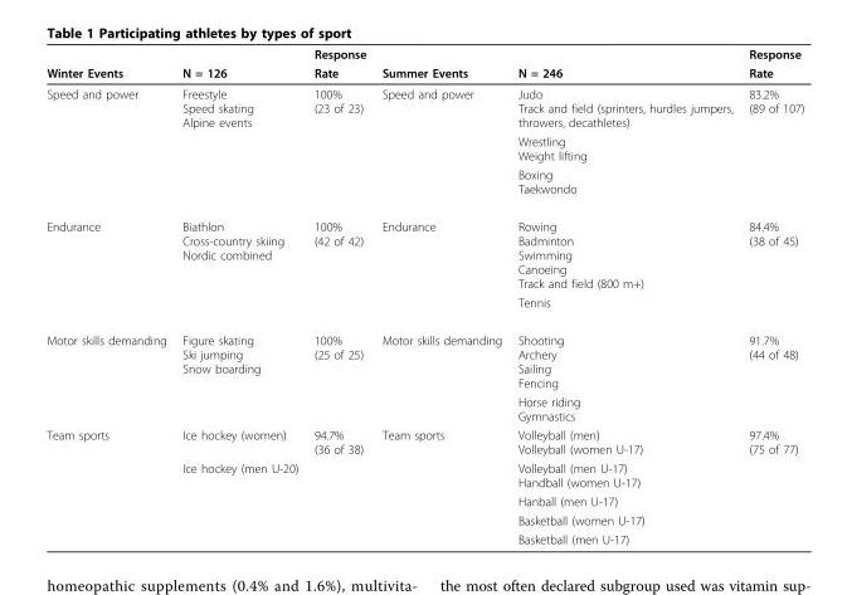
<table><thead><tr><td rowspan="2">Winter Events</td><td rowspan="2">N = 126</td><td rowspan="2">Response Rate</td><td rowspan="2">Summer Events</td><td rowspan="2">N = 246</td><td rowspan="2">Response Rate</td></tr><tr></tr></thead><tbody><tr><td rowspan="3">Speed and power</td><td>Freestyle Speed skating Alpine events</td><td>100% (23 of 23)</td><td>Speed and power</td><td>Judo Track and field (sprinters, hurdles jumpers, throwers, decathletes)</td><td>83.2% (89 of 107)</td></tr><tr><td></td><td></td><td></td><td>Wrestling Weight lifting</td><td></td></tr><tr><td></td><td></td><td></td><td>Boxing Taekwondo</td><td></td></tr><tr><td rowspan="2">Endurance</td><td>Biathlon Cross-country skiing Nordic combined</td><td>100% (42 of 42)</td><td>Endurance</td><td>Rowing Badminton Swimming Canoeing Track and field (800 m+)</td><td>84.4% (38 of 45)</td></tr><tr><td></td><td></td><td></td><td>Tennis</td><td></td></tr><tr><td rowspan="2">Motor skills demanding</td><td>Figure skating Ski jumping Snow boarding</td><td>100% (25 of 25)</td><td>Motor skills demanding</td><td>Shooting Archery Sailing Fencing</td><td>91.7% (44 of 48)</td></tr><tr><td></td><td></td><td></td><td>Horse riding Gymnastics</td><td></td></tr><tr><td rowspan="5">Team sports</td><td>Ice hockey (women)</td><td>94.7% (36 of 38)</td><td>Team sports</td><td>Volleyball (men) Volleyball (women U-17)</td><td>97.4% (75 of 77)</td></tr><tr><td>Ice hockey (men U-20)</td><td></td><td></td><td>Volleyball (men U-17) Handball (women U-17)</td><td></td></tr><tr><td></td><td></td><td></td><td>Hanball (men U-17)</td><td></td></tr><tr><td></td><td></td><td></td><td>Basketball (women U-17)</td><td></td></tr><tr><td></td><td></td><td></td><td>Basketball (men U-17)</td><td></td></tr></tbody></table>